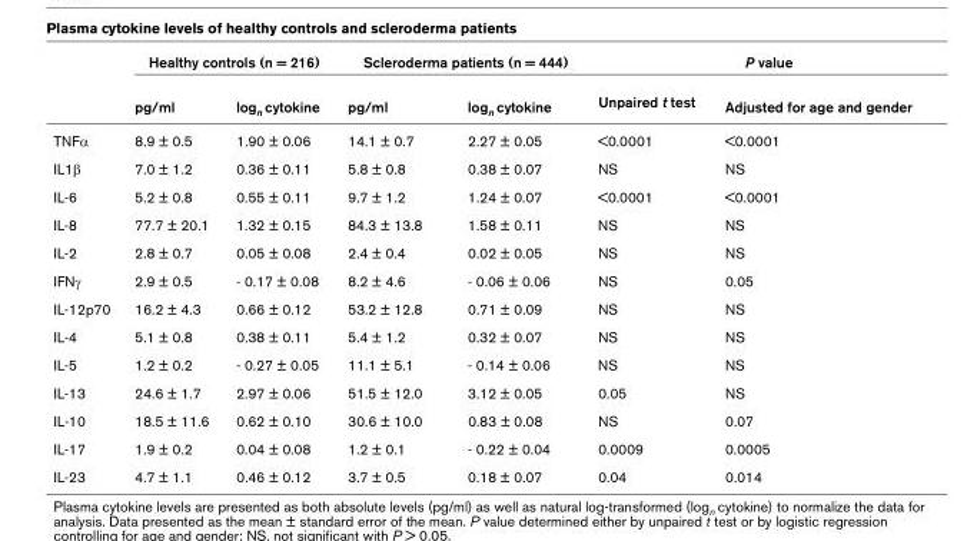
<table><thead><tr><td rowspan="2"></td><td colspan="2">Healthy controls (n = 216)</td><td colspan="2">Scleroderma patients (n = 444)</td><td colspan="2">P value</td></tr><tr><td>pg/ml</td><td>log<sub>n</sub> cytokine</td><td>pg/ml</td><td>log<sub>n</sub> cytokine</td><td>Unpaired t test</td><td>Adjusted for age and gender</td></tr></thead><tbody><tr><td>TNFα</td><td>8.9 ± 0.5</td><td>1.90 ± 0.06</td><td>14.1 ± 0.7</td><td>2.27 ± 0.05</td><td>&lt;0.0001</td><td>&lt;0.0001</td></tr><tr><td>IL1β</td><td>7.0 ± 1.2</td><td>0.36 ± 0.11</td><td>5.8 ± 0.8</td><td>0.38 ± 0.07</td><td>NS</td><td>NS</td></tr><tr><td>IL-6</td><td>5.2 ± 0.8</td><td>0.55 ± 0.11</td><td>9.7 ± 1.2</td><td>1.24 ± 0.07</td><td>&lt;0.0001</td><td>&lt;0.0001</td></tr><tr><td>IL-8</td><td>77.7 ± 20.1</td><td>1.32 ± 0.15</td><td>84.3 ± 13.8</td><td>1.58 ± 0.11</td><td>NS</td><td>NS</td></tr><tr><td>IL-2</td><td>2.8 ± 0.7</td><td>0.05 ± 0.08</td><td>2.4 ± 0.4</td><td>0.02 ± 0.05</td><td>NS</td><td>NS</td></tr><tr><td>IFNγ</td><td>2.9 ± 0.5</td><td>- 0.17 ± 0.08</td><td>8.2 ± 4.6</td><td>- 0.06 ± 0.06</td><td>NS</td><td>0.05</td></tr><tr><td>IL-12p70</td><td>16.2 ± 4.3</td><td>0.66 ± 0.12</td><td>53.2 ± 12.8</td><td>0.71 ± 0.09</td><td>NS</td><td>NS</td></tr><tr><td>IL-4</td><td>5.1 ± 0.8</td><td>0.38 ± 0.11</td><td>5.4 ± 1.2</td><td>0.32 ± 0.07</td><td>NS</td><td>NS</td></tr><tr><td>IL-5</td><td>1.2 ± 0.2</td><td>- 0.27 ± 0.05</td><td>11.1 ± 5.1</td><td>- 0.14 ± 0.06</td><td>NS</td><td>NS</td></tr><tr><td>IL-13</td><td>24.6 ± 1.7</td><td>2.97 ± 0.06</td><td>51.5 ± 12.0</td><td>3.12 ± 0.05</td><td>0.05</td><td>NS</td></tr><tr><td>IL-10</td><td>18.5 ± 11.6</td><td>0.62 ± 0.10</td><td>30.6 ± 10.0</td><td>0.83 ± 0.08</td><td>NS</td><td>0.07</td></tr><tr><td>IL-17</td><td>1.9 ± 0.2</td><td>0.04 ± 0.08</td><td>1.2 ± 0.1</td><td>- 0.22 ± 0.04</td><td>0.0009</td><td>0.0005</td></tr><tr><td>IL-23</td><td>4.7 ± 1.1</td><td>0.46 ± 0.12</td><td>3.7 ± 0.5</td><td>0.18 ± 0.07</td><td>0.04</td><td>0.014</td></tr></tbody></table>